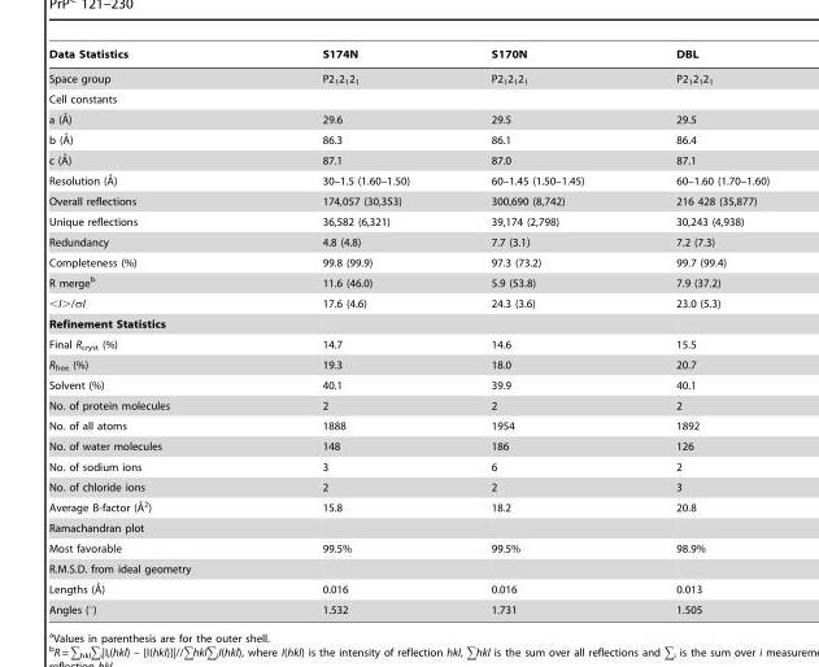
<table><thead><tr><td>Data Statistics</td><td>S174N</td><td>S170N</td><td>DBL</td></tr></thead><tbody><tr><td>Space group</td><td>P2<sub>1</sub>2<sub>1</sub>2<sub>1</sub></td><td>P2<sub>1</sub>2<sub>1</sub>2<sub>1</sub></td><td>P2<sub>1</sub>2<sub>1</sub>2<sub>1</sub></td></tr><tr><td colspan="4">Cell constants</td></tr><tr><td>a (A˚)</td><td>29.6</td><td>29.5</td><td>29.5</td></tr><tr><td>b (A˚)</td><td>86.3</td><td>86.1</td><td>86.4</td></tr><tr><td>c (A˚)</td><td>87.1</td><td>87.0</td><td>87.1</td></tr><tr><td>Resolution (A˚)</td><td>30–1.5 (1.60–1.50)</td><td>60–1.45 (1.50–1.45)</td><td>60–1.60 (1.70–1.60)</td></tr><tr><td>Overall reflections</td><td>174,057 (30,353)</td><td>300,690 (8,742)</td><td>216 428 (35,877)</td></tr><tr><td>Unique reflections</td><td>36,582 (6,321)</td><td>39,174 (2,798)</td><td>30,243 (4,938)</td></tr><tr><td>Redundancy</td><td>4.8 (4.8)</td><td>7.7 (3.1)</td><td>7.2 (7.3)</td></tr><tr><td>Completeness (%)</td><td>99.8 (99.9)</td><td>97.3 (73.2)</td><td>99.7 (99.4)</td></tr><tr><td>R merge<sup>b</sup></td><td>11.6 (46.0)</td><td>5.9 (53.8)</td><td>7.9 (37.2)</td></tr><tr><td>&lt;I&gt;/σI</td><td>17.6 (4.6)</td><td>24.3 (3.6)</td><td>23.0 (5.3)</td></tr><tr><td colspan="4">Refinement Statistics</td></tr><tr><td>Final R<sub>cryst</sub> (%)</td><td>14.7</td><td>14.6</td><td>15.5</td></tr><tr><td>R<sub>free</sub> (%)</td><td>19.3</td><td>18.0</td><td>20.7</td></tr><tr><td>Solvent (%)</td><td>40.1</td><td>39.9</td><td>40.1</td></tr><tr><td>No. of protein molecules</td><td>2</td><td>2</td><td>2</td></tr><tr><td>No. of all atoms</td><td>1888</td><td>1954</td><td>1892</td></tr><tr><td>No. of water molecules</td><td>148</td><td>186</td><td>126</td></tr><tr><td>No. of sodium ions</td><td>3</td><td>6</td><td>2</td></tr><tr><td>No. of chloride ions</td><td>2</td><td>2</td><td>3</td></tr><tr><td>Average B-factor (A˚2)</td><td>15.8</td><td>18.2</td><td>20.8</td></tr><tr><td colspan="4">Ramachandran plot</td></tr><tr><td>Most favorable</td><td>99.5%</td><td>99.5%</td><td>98.9%</td></tr><tr><td colspan="4">R.M.S.D. from ideal geometry</td></tr><tr><td>Lengths (A˚)</td><td>0.016</td><td>0.016</td><td>0.013</td></tr><tr><td>Angles (°)</td><td>1.532</td><td>1.731</td><td>1.505</td></tr></tbody></table>